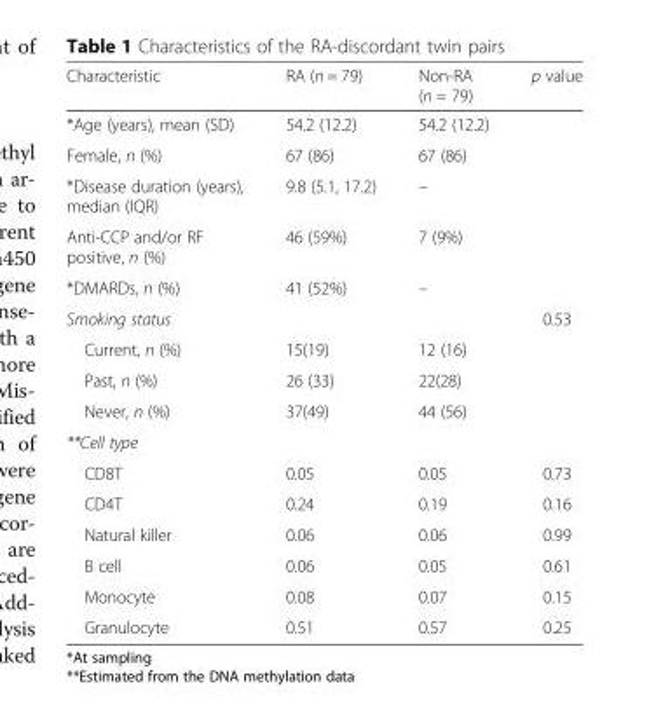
<table><thead><tr><td>Characteristic</td><td>RA (n = 79)</td><td>Non-RA (n = 79)</td><td>p value</td></tr></thead><tbody><tr><td>*Age (years), mean (SD)</td><td>54.2 (12.2)</td><td>54.2 (12.2)</td><td></td></tr><tr><td>Female, n (%)</td><td>67 (86)</td><td>67 (86)</td><td></td></tr><tr><td>*Disease duration (years), median (IQR)</td><td>9.8 (5.1, 17.2)</td><td>–</td><td></td></tr><tr><td>Anti-CCP and/or RF positive, n (%)</td><td>46 (59%)</td><td>7 (9%)</td><td></td></tr><tr><td>*DMARDs, n (%)</td><td>41 (52%)</td><td>–</td><td></td></tr><tr><td>Smoking status</td><td></td><td></td><td>0.53</td></tr><tr><td>Current, n (%)</td><td>15(19)</td><td>12 (16)</td><td></td></tr><tr><td>Past, n (%)</td><td>26 (33)</td><td>22(28)</td><td></td></tr><tr><td>Never, n (%)</td><td>37(49)</td><td>44 (56)</td><td></td></tr><tr><td colspan="4">**Cell type</td></tr><tr><td>CD8T</td><td>0.05</td><td>0.05</td><td>0.73</td></tr><tr><td>CD4T</td><td>0.24</td><td>0.19</td><td>0.16</td></tr><tr><td>Natural killer</td><td>0.06</td><td>0.06</td><td>0.99</td></tr><tr><td>B cell</td><td>0.06</td><td>0.05</td><td>0.61</td></tr><tr><td>Monocyte</td><td>0.08</td><td>0.07</td><td>0.15</td></tr><tr><td>Granulocyte</td><td>0.51</td><td>0.57</td><td>0.25</td></tr></tbody></table>